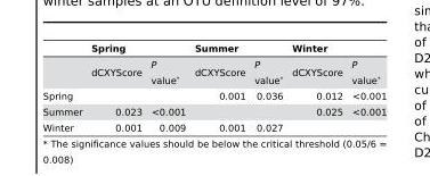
<table><thead><tr><td rowspan="2"></td><td colspan="2">Spring</td><td colspan="2">Summer</td><td colspan="2">Winter</td></tr><tr><td>dCXYScore</td><td>P value*</td><td>dCXYScore</td><td>P value*</td><td>dCXYScore</td><td>P value*</td></tr></thead><tbody><tr><td>Spring</td><td></td><td></td><td>0.001</td><td>0.036</td><td>0.012</td><td>&lt;0.001</td></tr><tr><td>Summer</td><td>0.023</td><td>&lt;0.001</td><td></td><td></td><td>0.025</td><td>&lt;0.001</td></tr><tr><td>Winter</td><td>0.001</td><td>0.009</td><td>0.001</td><td>0.027</td><td></td><td></td></tr></tbody></table>